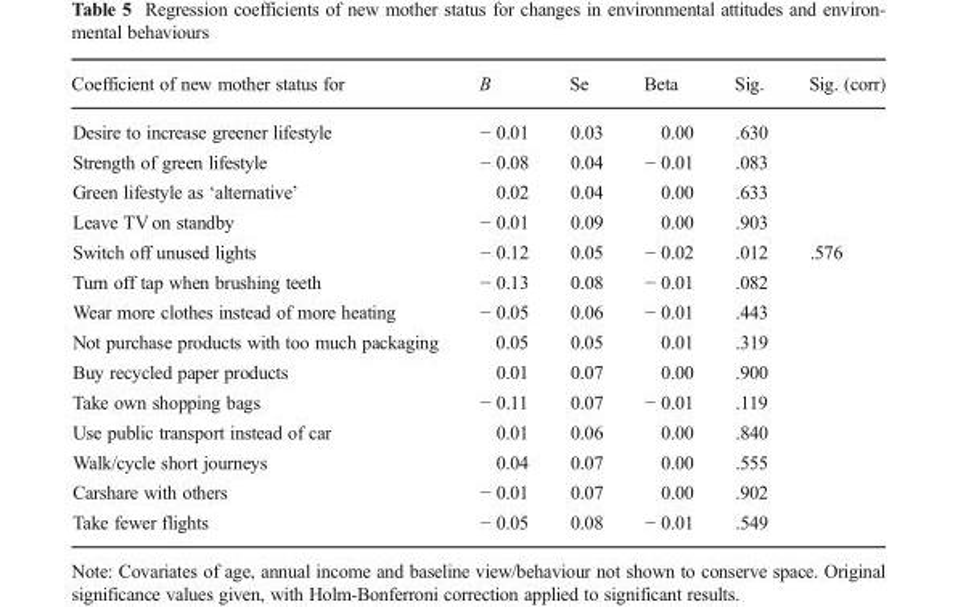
<table><thead><tr><td>Coefficient of new mother status for</td><td>B</td><td>Se</td><td>Beta</td><td>Sig.</td><td>Sig. (corr)</td></tr></thead><tbody><tr><td>Desire to increase greener lifestyle</td><td>− 0.01</td><td>0.03</td><td>0.00</td><td>.630</td><td></td></tr><tr><td>Strength of green lifestyle</td><td>− 0.08</td><td>0.04</td><td>− 0.01</td><td>.083</td><td></td></tr><tr><td>Green lifestyle as ‘alternative’</td><td>0.02</td><td>0.04</td><td>0.00</td><td>.633</td><td></td></tr><tr><td>Leave TV on standby</td><td>− 0.01</td><td>0.09</td><td>0.00</td><td>.903</td><td></td></tr><tr><td>Switch off unused lights</td><td>− 0.12</td><td>0.05</td><td>− 0.02</td><td>.012</td><td>.576</td></tr><tr><td>Turn off tap when brushing teeth</td><td>− 0.13</td><td>0.08</td><td>− 0.01</td><td>.082</td><td></td></tr><tr><td>Wear more clothes instead of more heating</td><td>− 0.05</td><td>0.06</td><td>− 0.01</td><td>.443</td><td></td></tr><tr><td>Not purchase products with too much packaging</td><td>0.05</td><td>0.05</td><td>0.01</td><td>.319</td><td></td></tr><tr><td>Buy recycled paper products</td><td>0.01</td><td>0.07</td><td>0.00</td><td>.900</td><td></td></tr><tr><td>Take own shopping bags</td><td>− 0.11</td><td>0.07</td><td>− 0.01</td><td>.119</td><td></td></tr><tr><td>Use public transport instead of car</td><td>0.01</td><td>0.06</td><td>0.00</td><td>.840</td><td></td></tr><tr><td>Walk/cycle short journeys</td><td>0.04</td><td>0.07</td><td>0.00</td><td>.555</td><td></td></tr><tr><td>Carshare with others</td><td>− 0.01</td><td>0.07</td><td>0.00</td><td>.902</td><td></td></tr><tr><td>Take fewer flights</td><td>− 0.05</td><td>0.08</td><td>− 0.01</td><td>.549</td><td></td></tr></tbody></table>